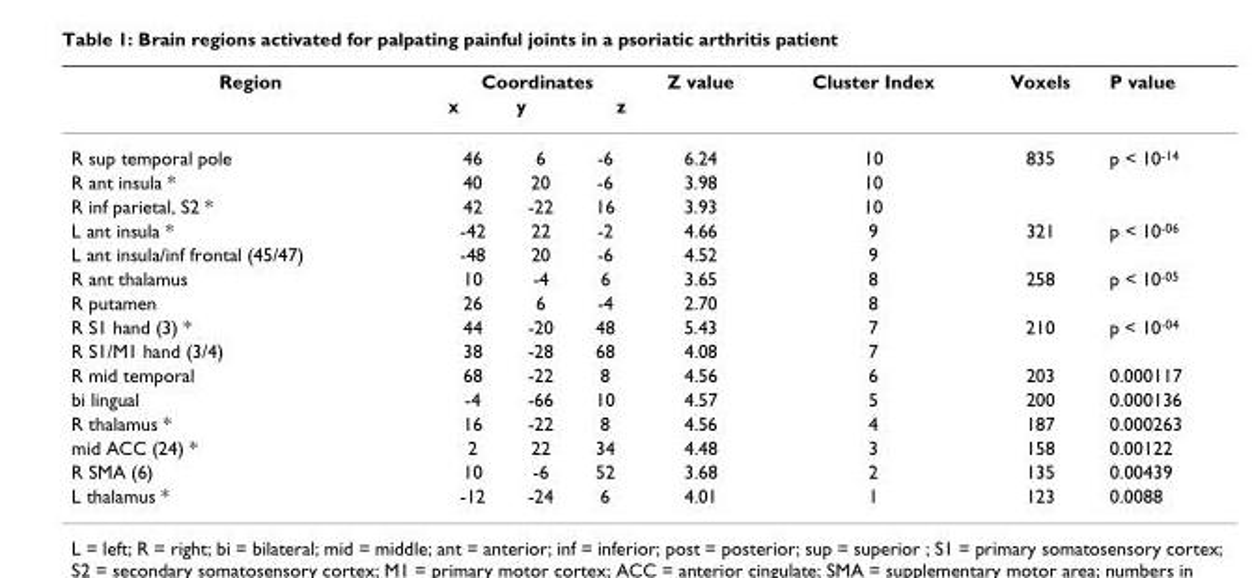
<table><thead><tr><td rowspan="2">Region</td><td colspan="3">Coordinates</td><td rowspan="2">Z value</td><td rowspan="2">Cluster Index</td><td rowspan="2">Voxels</td><td rowspan="2">P value</td></tr><tr><td>x</td><td>y</td><td>z</td></tr></thead><tbody><tr><td>R sup temporal pole</td><td>46</td><td>6</td><td>-6</td><td>6.24</td><td>10</td><td>835</td><td>p &lt; 10<sup>-14</sup></td></tr><tr><td>R ant insula *</td><td>40</td><td>20</td><td>-6</td><td>3.98</td><td>10</td><td></td><td></td></tr><tr><td>R inf parietal, S2 *</td><td>42</td><td>-22</td><td>16</td><td>3.93</td><td>10</td><td></td><td></td></tr><tr><td>L ant insula *</td><td>-42</td><td>22</td><td>-2</td><td>4.66</td><td>9</td><td>321</td><td>p &lt; 10<sup>-06</sup></td></tr><tr><td>L ant insula/inf frontal (45/47)</td><td>-48</td><td>20</td><td>-6</td><td>4.52</td><td>9</td><td></td><td></td></tr><tr><td>R ant thalamus</td><td>10</td><td>-4</td><td>6</td><td>3.65</td><td>8</td><td>258</td><td>p &lt; 10<sup>-05</sup></td></tr><tr><td>R putamen</td><td>26</td><td>6</td><td>-4</td><td>2.70</td><td>8</td><td></td><td></td></tr><tr><td>R S1 hand (3) *</td><td>44</td><td>-20</td><td>48</td><td>5.43</td><td>7</td><td>210</td><td>p &lt; 10<sup>-04</sup></td></tr><tr><td>R S1/M1 hand (3/4)</td><td>38</td><td>-28</td><td>68</td><td>4.08</td><td>7</td><td></td><td></td></tr><tr><td>R mid temporal</td><td>68</td><td>-22</td><td>8</td><td>4.56</td><td>6</td><td>203</td><td>0.000117</td></tr><tr><td>bi lingual</td><td>-4</td><td>-66</td><td>10</td><td>4.57</td><td>5</td><td>200</td><td>0.000136</td></tr><tr><td>R thalamus *</td><td>16</td><td>-22</td><td>8</td><td>4.56</td><td>4</td><td>187</td><td>0.000263</td></tr><tr><td>mid ACC (24) *</td><td>2</td><td>22</td><td>34</td><td>4.48</td><td>3</td><td>158</td><td>0.00122</td></tr><tr><td>R SMA (6)</td><td>10</td><td>-6</td><td>52</td><td>3.68</td><td>2</td><td>135</td><td>0.00439</td></tr><tr><td>L thalamus *</td><td>-12</td><td>-24</td><td>6</td><td>4.01</td><td>1</td><td>123</td><td>0.0088</td></tr></tbody></table>